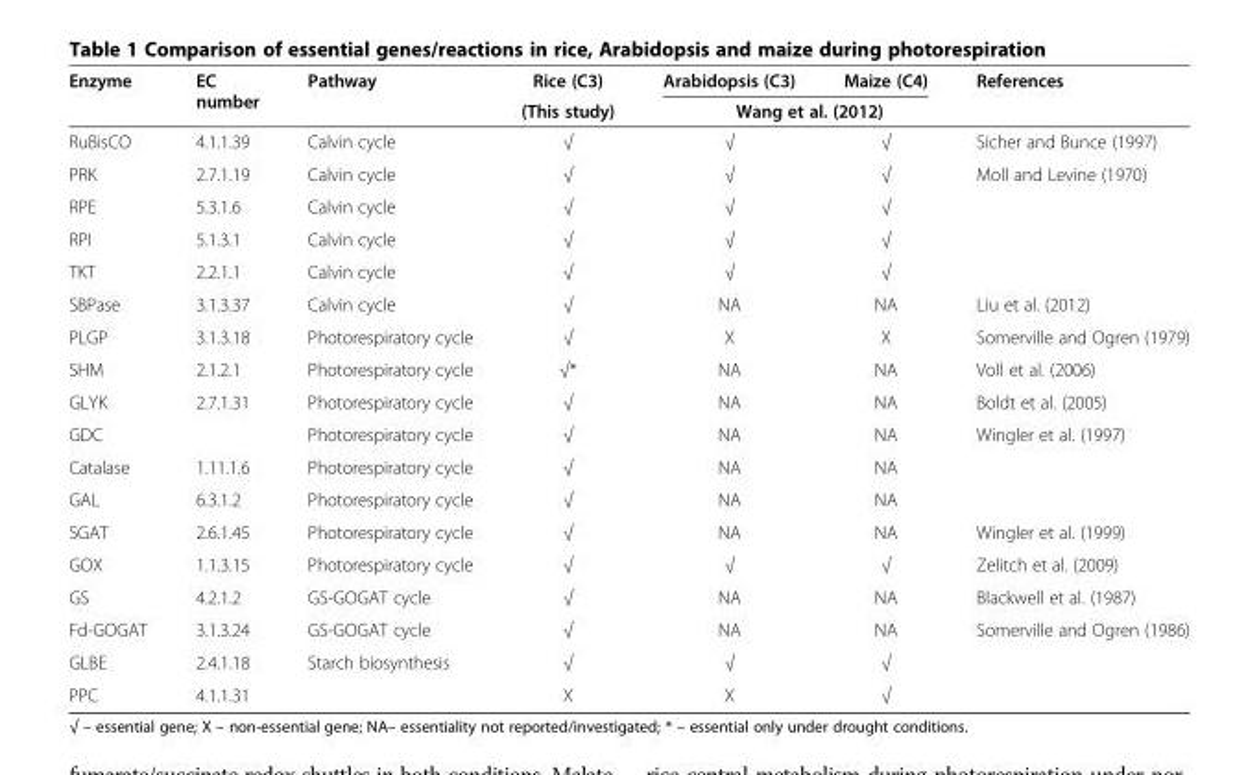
<table><thead><tr><td rowspan="2">Enzyme</td><td rowspan="2">EC number</td><td rowspan="2">Pathway</td><td rowspan="2">Rice (C3) (This study)</td><td>Arabidopsis (C3)</td><td>Maize (C4)</td><td rowspan="2">References</td></tr><tr><td colspan="2">Wang et al. (2012)</td></tr></thead><tbody><tr><td>RuBisCO</td><td>4.1.1.39</td><td>Calvin cycle</td><td>√</td><td>√</td><td>√</td><td>Sicher and Bunce (1997)</td></tr><tr><td>PRK</td><td>2.7.1.19</td><td>Calvin cycle</td><td>√</td><td>√</td><td>√</td><td>Moll and Levine (1970)</td></tr><tr><td>RPE</td><td>5.3.1.6</td><td>Calvin cycle</td><td>√</td><td>√</td><td>√</td><td></td></tr><tr><td>RPI</td><td>5.1.3.1</td><td>Calvin cycle</td><td>√</td><td>√</td><td>√</td><td></td></tr><tr><td>TKT</td><td>2.2.1.1</td><td>Calvin cycle</td><td>√</td><td>√</td><td>√</td><td></td></tr><tr><td>SBPase</td><td>3.1.3.37</td><td>Calvin cycle</td><td>√</td><td>NA</td><td>NA</td><td>Liu et al. (2012)</td></tr><tr><td>PLGP</td><td>3.1.3.18</td><td>Photorespiratory cycle</td><td>√</td><td>X</td><td>X</td><td>Somerville and Ogren (1979)</td></tr><tr><td>SHM</td><td>2.1.2.1</td><td>Photorespiratory cycle</td><td>√*</td><td>NA</td><td>NA</td><td>Voll et al. (2006)</td></tr><tr><td>GLYK</td><td>2.7.1.31</td><td>Photorespiratory cycle</td><td>√</td><td>NA</td><td>NA</td><td>Boldt et al. (2005)</td></tr><tr><td>GDC</td><td></td><td>Photorespiratory cycle</td><td>√</td><td>NA</td><td>NA</td><td>Wingler et al. (1997)</td></tr><tr><td>Catalase</td><td>1.11.1.6</td><td>Photorespiratory cycle</td><td>√</td><td>NA</td><td>NA</td><td></td></tr><tr><td>GAL</td><td>6.3.1.2</td><td>Photorespiratory cycle</td><td>√</td><td>NA</td><td>NA</td><td></td></tr><tr><td>SGAT</td><td>2.6.1.45</td><td>Photorespiratory cycle</td><td>√</td><td>NA</td><td>NA</td><td>Wingler et al. (1999)</td></tr><tr><td>GOX</td><td>1.1.3.15</td><td>Photorespiratory cycle</td><td>√</td><td>√</td><td>√</td><td>Zelitch et al. (2009)</td></tr><tr><td>GS</td><td>4.2.1.2</td><td>GS-GOGAT cycle</td><td>√</td><td>NA</td><td>NA</td><td>Blackwell et al. (1987)</td></tr><tr><td>Fd-GOGAT</td><td>3.1.3.24</td><td>GS-GOGAT cycle</td><td>√</td><td>NA</td><td>NA</td><td>Somerville and Ogren (1986)</td></tr><tr><td>GLBE</td><td>2.4.1.18</td><td>Starch biosynthesis</td><td>√</td><td>√</td><td>√</td><td></td></tr><tr><td>PPC</td><td>4.1.1.31</td><td></td><td>X</td><td>X</td><td>√</td><td></td></tr></tbody></table>